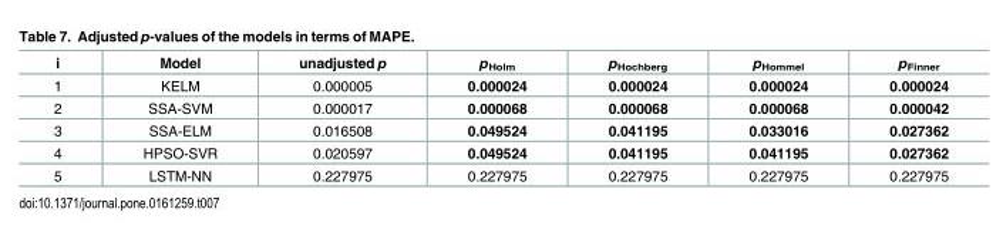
<table><thead><tr><td>i</td><td>Model</td><td>unadjusted p</td><td>p<sub>Holm</sub></td><td>p<sub>Hochberg</sub></td><td>p<sub>Hommel</sub></td><td>p<sub>Finner</sub></td></tr></thead><tbody><tr><td>1</td><td>KELM</td><td>0.000005</td><td>0.000024</td><td>0.000024</td><td>0.000024</td><td>0.000024</td></tr><tr><td>2</td><td>SSA-SVM</td><td>0.000017</td><td>0.000068</td><td>0.000068</td><td>0.000068</td><td>0.000042</td></tr><tr><td>3</td><td>SSA-ELM</td><td>0.016508</td><td>0.049524</td><td>0.041195</td><td>0.033016</td><td>0.027362</td></tr><tr><td>4</td><td>HPSO-SVR</td><td>0.020597</td><td>0.049524</td><td>0.041195</td><td>0.041195</td><td>0.027362</td></tr><tr><td>5</td><td>LSTM-NN</td><td>0.227975</td><td>0.227975</td><td>0.227975</td><td>0.227975</td><td>0.227975</td></tr></tbody></table>